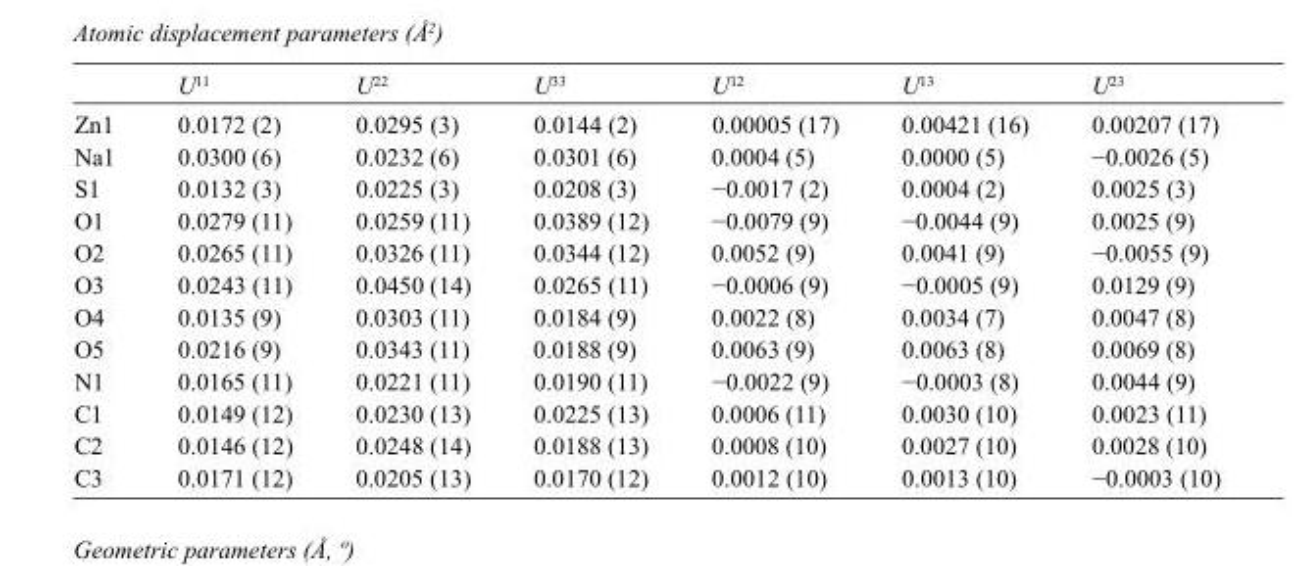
<table><thead><tr><td></td><td>U<sup>11</sup></td><td>U<sup>22</sup></td><td>U<sup>33</sup></td><td>U<sup>12</sup></td><td>U<sup>13</sup></td><td>U<sup>23</sup></td></tr></thead><tbody><tr><td>Zn1</td><td>0.0172 (2)</td><td>0.0295 (3)</td><td>0.0144 (2)</td><td>0.00005 (17)</td><td>0.00421 (16)</td><td>0.00207 (17)</td></tr><tr><td>Na1</td><td>0.0300 (6)</td><td>0.0232 (6)</td><td>0.0301 (6)</td><td>0.0004 (5)</td><td>0.0000 (5)</td><td>−0.0026 (5)</td></tr><tr><td>S1</td><td>0.0132 (3)</td><td>0.0225 (3)</td><td>0.0208 (3)</td><td>−0.0017 (2)</td><td>0.0004 (2)</td><td>0.0025 (3)</td></tr><tr><td>O1</td><td>0.0279 (11)</td><td>0.0259 (11)</td><td>0.0389 (12)</td><td>−0.0079 (9)</td><td>−0.0044 (9)</td><td>0.0025 (9)</td></tr><tr><td>O2</td><td>0.0265 (11)</td><td>0.0326 (11)</td><td>0.0344 (12)</td><td>0.0052 (9)</td><td>0.0041 (9)</td><td>−0.0055 (9)</td></tr><tr><td>O3</td><td>0.0243 (11)</td><td>0.0450 (14)</td><td>0.0265 (11)</td><td>−0.0006 (9)</td><td>−0.0005 (9)</td><td>0.0129 (9)</td></tr><tr><td>O4</td><td>0.0135 (9)</td><td>0.0303 (11)</td><td>0.0184 (9)</td><td>0.0022 (8)</td><td>0.0034 (7)</td><td>0.0047 (8)</td></tr><tr><td>O5</td><td>0.0216 (9)</td><td>0.0343 (11)</td><td>0.0188 (9)</td><td>0.0063 (9)</td><td>0.0063 (8)</td><td>0.0069 (8)</td></tr><tr><td>N1</td><td>0.0165 (11)</td><td>0.0221 (11)</td><td>0.0190 (11)</td><td>−0.0022 (9)</td><td>−0.0003 (8)</td><td>0.0044 (9)</td></tr><tr><td>C1</td><td>0.0149 (12)</td><td>0.0230 (13)</td><td>0.0225 (13)</td><td>0.0006 (11)</td><td>0.0030 (10)</td><td>0.0023 (11)</td></tr><tr><td>C2</td><td>0.0146 (12)</td><td>0.0248 (14)</td><td>0.0188 (13)</td><td>0.0008 (10)</td><td>0.0027 (10)</td><td>0.0028 (10)</td></tr><tr><td>C3</td><td>0.0171 (12)</td><td>0.0205 (13)</td><td>0.0170 (12)</td><td>0.0012 (10)</td><td>0.0013 (10)</td><td>−0.0003 (10)</td></tr></tbody></table>